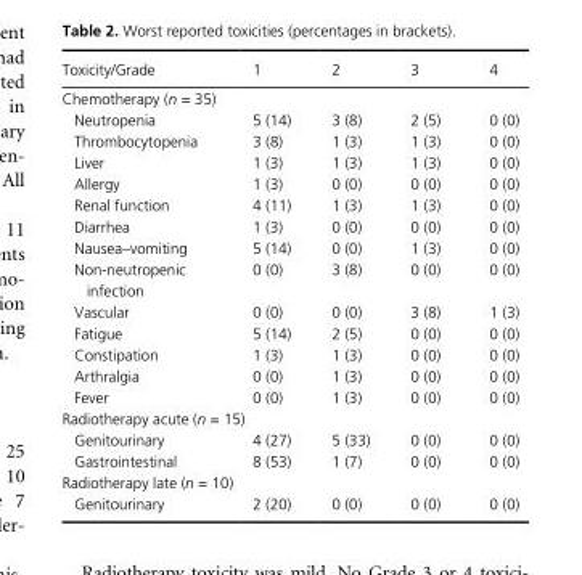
<table><thead><tr><td>Toxicity/Grade</td><td>1</td><td>2</td><td>3</td><td>4</td></tr></thead><tbody><tr><td colspan="5">Chemotherapy (n = 35)</td></tr><tr><td>Neutropenia</td><td>5 (14)</td><td>3 (8)</td><td>2 (5)</td><td>0 (0)</td></tr><tr><td>Thrombocytopenia</td><td>3 (8)</td><td>1 (3)</td><td>1 (3)</td><td>0 (0)</td></tr><tr><td>Liver</td><td>1 (3)</td><td>1 (3)</td><td>1 (3)</td><td>0 (0)</td></tr><tr><td>Allergy</td><td>1 (3)</td><td>0 (0)</td><td>0 (0)</td><td>0 (0)</td></tr><tr><td>Renal function</td><td>4 (11)</td><td>1 (3)</td><td>1 (3)</td><td>0 (0)</td></tr><tr><td>Diarrhea</td><td>1 (3)</td><td>0 (0)</td><td>0 (0)</td><td>0 (0)</td></tr><tr><td>Nausea–vomiting</td><td>5 (14)</td><td>0 (0)</td><td>1 (3)</td><td>0 (0)</td></tr><tr><td>Non- neutropenic infection</td><td>0 (0)</td><td>3 (8)</td><td>0 (0)</td><td>0 (0)</td></tr><tr><td>Vascular</td><td>0 (0)</td><td>0 (0)</td><td>3 (8)</td><td>1 (3)</td></tr><tr><td>Fatigue</td><td>5 (14)</td><td>2 (5)</td><td>0 (0)</td><td>0 (0)</td></tr><tr><td>Constipation</td><td>1 (3)</td><td>1 (3)</td><td>0 (0)</td><td>0 (0)</td></tr><tr><td>Arthralgia</td><td>0 (0)</td><td>1 (3)</td><td>0 (0)</td><td>0 (0)</td></tr><tr><td>Fever</td><td>0 (0)</td><td>1 (3)</td><td>0 (0)</td><td>0 (0)</td></tr><tr><td colspan="5">Radiotherapy acute (n = 15)</td></tr><tr><td>Genitourinary</td><td>4 (27)</td><td>5 (33)</td><td>0 (0)</td><td>0 (0)</td></tr><tr><td>Gastrointestinal</td><td>8 (53)</td><td>1 (7)</td><td>0 (0)</td><td>0 (0)</td></tr><tr><td colspan="5">Radiotherapy late (n = 10)</td></tr><tr><td>Genitourinary</td><td>2 (20)</td><td>0 (0)</td><td>0 (0)</td><td>0 (0)</td></tr></tbody></table>